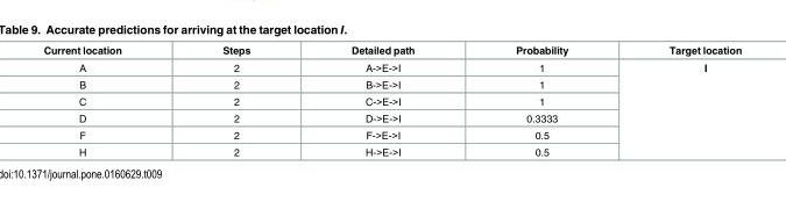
<table><thead><tr><td>Current location</td><td>Steps</td><td>Detailed path</td><td>Probability</td><td>Target location</td></tr></thead><tbody><tr><td>A</td><td>2</td><td>A-&gt;E-&gt;I</td><td>1</td><td rowspan="6">I</td></tr><tr><td>B</td><td>2</td><td>B-&gt;E-&gt;I</td><td>1</td></tr><tr><td>C</td><td>2</td><td>C-&gt;E-&gt;I</td><td>1</td></tr><tr><td>D</td><td>2</td><td>D-&gt;E-&gt;I</td><td>0.3333</td></tr><tr><td>F</td><td>2</td><td>F-&gt;E-&gt;I</td><td>0.5</td></tr><tr><td>H</td><td>2</td><td>H-&gt;E-&gt;I</td><td>0.5</td></tr></tbody></table>